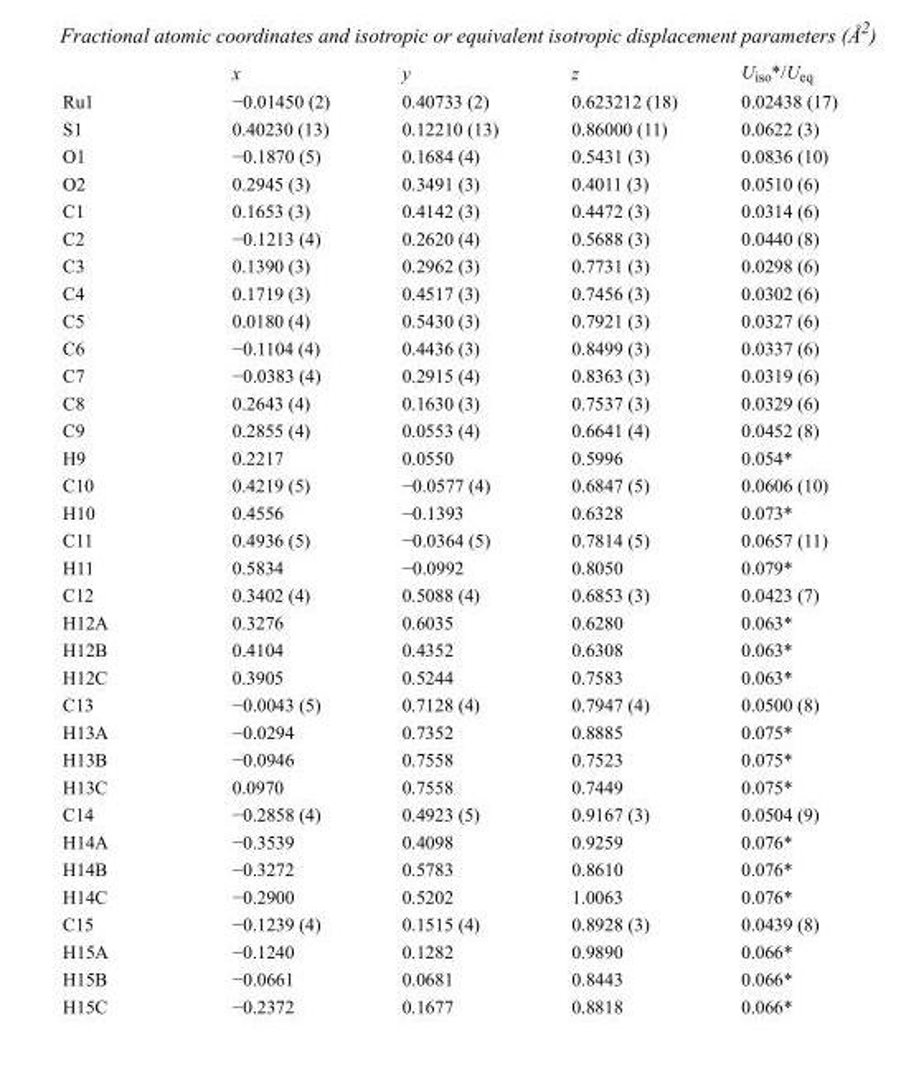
<table><thead><tr><td></td><td>x</td><td>y</td><td>z</td><td>U<sub>iso</sub>*/U<sub>eq</sub></td></tr></thead><tbody><tr><td>Ru1</td><td>−0.01450 (2)</td><td>0.40733 (2)</td><td>0.623212 (18)</td><td>0.02438 (17)</td></tr><tr><td>S1</td><td>0.40230 (13)</td><td>0.12210 (13)</td><td>0.86000 (11)</td><td>0.0622 (3)</td></tr><tr><td>O1</td><td>−0.1870 (5)</td><td>0.1684 (4)</td><td>0.5431 (3)</td><td>0.0836 (10)</td></tr><tr><td>O2</td><td>0.2945 (3)</td><td>0.3491 (3)</td><td>0.4011 (3)</td><td>0.0510 (6)</td></tr><tr><td>C1</td><td>0.1653 (3)</td><td>0.4142 (3)</td><td>0.4472 (3)</td><td>0.0314 (6)</td></tr><tr><td>C2</td><td>−0.1213 (4)</td><td>0.2620 (4)</td><td>0.5688 (3)</td><td>0.0440 (8)</td></tr><tr><td>C3</td><td>0.1390 (3)</td><td>0.2962 (3)</td><td>0.7731 (3)</td><td>0.0298 (6)</td></tr><tr><td>C4</td><td>0.1719 (3)</td><td>0.4517 (3)</td><td>0.7456 (3)</td><td>0.0302 (6)</td></tr><tr><td>C5</td><td>0.0180 (4)</td><td>0.5430 (3)</td><td>0.7921 (3)</td><td>0.0327 (6)</td></tr><tr><td>C6</td><td>−0.1104 (4)</td><td>0.4436 (3)</td><td>0.8499 (3)</td><td>0.0337 (6)</td></tr><tr><td>C7</td><td>−0.0383 (4)</td><td>0.2915 (4)</td><td>0.8363 (3)</td><td>0.0319 (6)</td></tr><tr><td>C8</td><td>0.2643 (4)</td><td>0.1630 (3)</td><td>0.7537 (3)</td><td>0.0329 (6)</td></tr><tr><td>C9</td><td>0.2855 (4)</td><td>0.0553 (4)</td><td>0.6641 (4)</td><td>0.0452 (8)</td></tr><tr><td>H9</td><td>0.2217</td><td>0.0550</td><td>0.5996</td><td>0.054*</td></tr><tr><td>C10</td><td>0.4219 (5)</td><td>−0.0577 (4)</td><td>0.6847 (5)</td><td>0.0606 (10)</td></tr><tr><td>H10</td><td>0.4556</td><td>−0.1393</td><td>0.6328</td><td>0.073*</td></tr><tr><td>C11</td><td>0.4936 (5)</td><td>−0.0364 (5)</td><td>0.7814 (5)</td><td>0.0657 (11)</td></tr><tr><td>H11</td><td>0.5834</td><td>−0.0992</td><td>0.8050</td><td>0.079*</td></tr><tr><td>C12</td><td>0.3402 (4)</td><td>0.5088 (4)</td><td>0.6853 (3)</td><td>0.0423 (7)</td></tr><tr><td>H12A</td><td>0.3276</td><td>0.6035</td><td>0.6280</td><td>0.063*</td></tr><tr><td>H12B</td><td>0.4104</td><td>0.4352</td><td>0.6308</td><td>0.063*</td></tr><tr><td>H12C</td><td>0.3905</td><td>0.5244</td><td>0.7583</td><td>0.063*</td></tr><tr><td>C13</td><td>−0.0043 (5)</td><td>0.7128 (4)</td><td>0.7947 (4)</td><td>0.0500 (8)</td></tr><tr><td>H13A</td><td>−0.0294</td><td>0.7352</td><td>0.8885</td><td>0.075*</td></tr><tr><td>H13B</td><td>−0.0946</td><td>0.7558</td><td>0.7523</td><td>0.075*</td></tr><tr><td>H13C</td><td>0.0970</td><td>0.7558</td><td>0.7449</td><td>0.075*</td></tr><tr><td>C14</td><td>−0.2858 (4)</td><td>0.4923 (5)</td><td>0.9167 (3)</td><td>0.0504 (9)</td></tr><tr><td>H14A</td><td>−0.3539</td><td>0.4098</td><td>0.9259</td><td>0.076*</td></tr><tr><td>H14B</td><td>−0.3272</td><td>0.5783</td><td>0.8610</td><td>0.076*</td></tr><tr><td>H14C</td><td>−0.2900</td><td>0.5202</td><td>1.0063</td><td>0.076*</td></tr><tr><td>C15</td><td>−0.1239 (4)</td><td>0.1515 (4)</td><td>0.8928 (3)</td><td>0.0439 (8)</td></tr><tr><td>H15A</td><td>−0.1240</td><td>0.1282</td><td>0.9890</td><td>0.066*</td></tr><tr><td>H15B</td><td>−0.0661</td><td>0.0681</td><td>0.8443</td><td>0.066*</td></tr><tr><td>H15C</td><td>−0.2372</td><td>0.1677</td><td>0.8818</td><td>0.066*</td></tr></tbody></table>